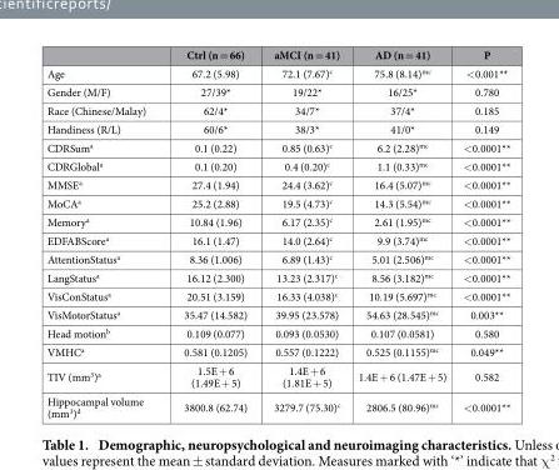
<table><thead><tr><td></td><td>Ctrl (n = 66)</td><td>aMCI (n = 41)</td><td>AD (n = 41)</td><td>P</td></tr></thead><tbody><tr><td>Age</td><td>67.2 (5.98)</td><td>72.1 (7.67)<sup>c</sup></td><td>75.8 (8.14)<sup>mc</sup></td><td>&lt; 0.001**</td></tr><tr><td>Gender (M/F)</td><td>27/39*</td><td>19/22*</td><td>16/25*</td><td>0.780</td></tr><tr><td>Race (Chinese/Malay)</td><td>62/4*</td><td>34/7*</td><td>37/4*</td><td>0.185</td></tr><tr><td>Handiness (R/L)</td><td>60/6*</td><td>38/3*</td><td>41/0*</td><td>0.149</td></tr><tr><td>CDRSum<sup>a</sup></td><td>0.1 (0.22)</td><td>0.85 (0.63)<sup>c</sup></td><td>6.2 (2.28)<sup>mc</sup></td><td>&lt; 0.0001**</td></tr><tr><td>CDRGlobal<sup>a</sup></td><td>0.1 (0.20)</td><td>0.4 (0.20)<sup>c</sup></td><td>1.1 (0.33)<sup>mc</sup></td><td>&lt; 0.0001**</td></tr><tr><td>MMSE<sup>a</sup></td><td>27.4 (1.94)</td><td>24.4 (3.62)<sup>c</sup></td><td>16.4 (5.07)<sup>mc</sup></td><td>&lt; 0.0001**</td></tr><tr><td>MoCA<sup>a</sup></td><td>25.2 (2.88)</td><td>19.5 (4.73)<sup>c</sup></td><td>14.3 (5.54)<sup>mc</sup></td><td>&lt; 0.0001**</td></tr><tr><td>Memory<sup>a</sup></td><td>10.84 (1.96)</td><td>6.17 (2.35)<sup>c</sup></td><td>2.61 (1.95)<sup>mc</sup></td><td>&lt; 0.0001**</td></tr><tr><td>EDFABScore<sup>a</sup></td><td>16.1 (1.47)</td><td>14.0 (2.64)<sup>c</sup></td><td>9.9 (3.74)<sup>mc</sup></td><td>&lt; 0.0001**</td></tr><tr><td>AttentionStatus<sup>a</sup></td><td>8.36 (1.006)</td><td>6.89 (1.43)<sup>c</sup></td><td>5.01 (2.506)<sup>mc</sup></td><td>&lt; 0.0001**</td></tr><tr><td>LangStatus<sup>a</sup></td><td>16.12 (2.300)</td><td>13.23 (2.317)<sup>c</sup></td><td>8.56 (3.182)<sup>mc</sup></td><td>&lt; 0.0001**</td></tr><tr><td>VisConStatus<sup>a</sup></td><td>20.51 (3.159)</td><td>16.33 (4.038)<sup>c</sup></td><td>10.19 (5.697)<sup>mc</sup></td><td>&lt; 0.0001**</td></tr><tr><td>VisMotorStatus<sup>a</sup></td><td>35.47 (14.582)</td><td>39.95 (23.578)</td><td>54.63 (28.545)<sup>mc</sup></td><td>0.003**</td></tr><tr><td>Head motion<sup>b</sup></td><td>0.109 (0.077)</td><td>0.093 (0.0530)</td><td>0.107 (0.0581)</td><td>0.580</td></tr><tr><td>VMHC<sup>a</sup></td><td>0.581 (0.1205)</td><td>0.557 (0.1222)</td><td>0.525 (0.1155)<sup>mc</sup></td><td>0.049**</td></tr><tr><td>TIV (mm<sup>3</sup>)<sup>a</sup></td><td>1.5E + 6 (1.49E + 5)</td><td>1.4E + 6 (1.81E + 5)</td><td>1.4E + 6 (1.47E + 5)</td><td>0.582</td></tr><tr><td>Hippocampal volume (mm<sup>3</sup>)<sup>d</sup></td><td>3800.8 (62.74)</td><td>3279.7 (75.30)<sup>c</sup></td><td>2806.5 (80.96)<sup>mc</sup></td><td>&lt; 0.0001**</td></tr></tbody></table>